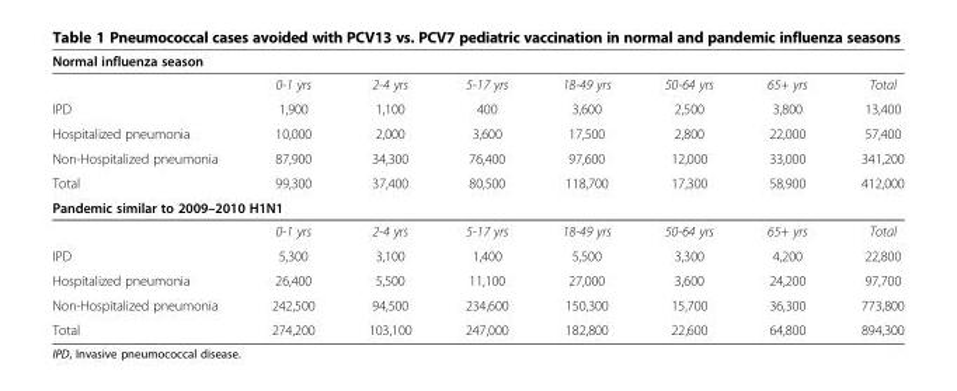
<table><thead><tr><td colspan="8">Normal influenza season</td></tr><tr><td></td><td>0-1 yrs</td><td>2-4 yrs</td><td>5-17 yrs</td><td>18-49 yrs</td><td>50-64 yrs</td><td>65+ yrs</td><td>Total</td></tr></thead><tbody><tr><td>IPD</td><td>1,900</td><td>1,100</td><td>400</td><td>3,600</td><td>2,500</td><td>3,800</td><td>13,400</td></tr><tr><td>Hospitalized pneumonia</td><td>10,000</td><td>2,000</td><td>3,600</td><td>17,500</td><td>2,800</td><td>22,000</td><td>57,400</td></tr><tr><td>Non-Hospitalized pneumonia</td><td>87,900</td><td>34,300</td><td>76,400</td><td>97,600</td><td>12,000</td><td>33,000</td><td>341,200</td></tr><tr><td>Total</td><td>99,300</td><td>37,400</td><td>80,500</td><td>118,700</td><td>17,300</td><td>58,900</td><td>412,000</td></tr><tr><td colspan="8">Pandemic similar to 2009–2010 H1N1</td></tr><tr><td></td><td>0-1 yrs</td><td>2-4 yrs</td><td>5-17 yrs</td><td>18-49 yrs</td><td>50-64 yrs</td><td>65+ yrs</td><td>Total</td></tr><tr><td>IPD</td><td>5,300</td><td>3,100</td><td>1,400</td><td>5,500</td><td>3,300</td><td>4,200</td><td>22,800</td></tr><tr><td>Hospitalized pneumonia</td><td>26,400</td><td>5,500</td><td>11,100</td><td>27,000</td><td>3,600</td><td>24,200</td><td>97,700</td></tr><tr><td>Non-Hospitalized pneumonia</td><td>242,500</td><td>94,500</td><td>234,600</td><td>150,300</td><td>15,700</td><td>36,300</td><td>773,800</td></tr><tr><td>Total</td><td>274,200</td><td>103,100</td><td>247,000</td><td>182,800</td><td>22,600</td><td>64,800</td><td>894,300</td></tr></tbody></table>